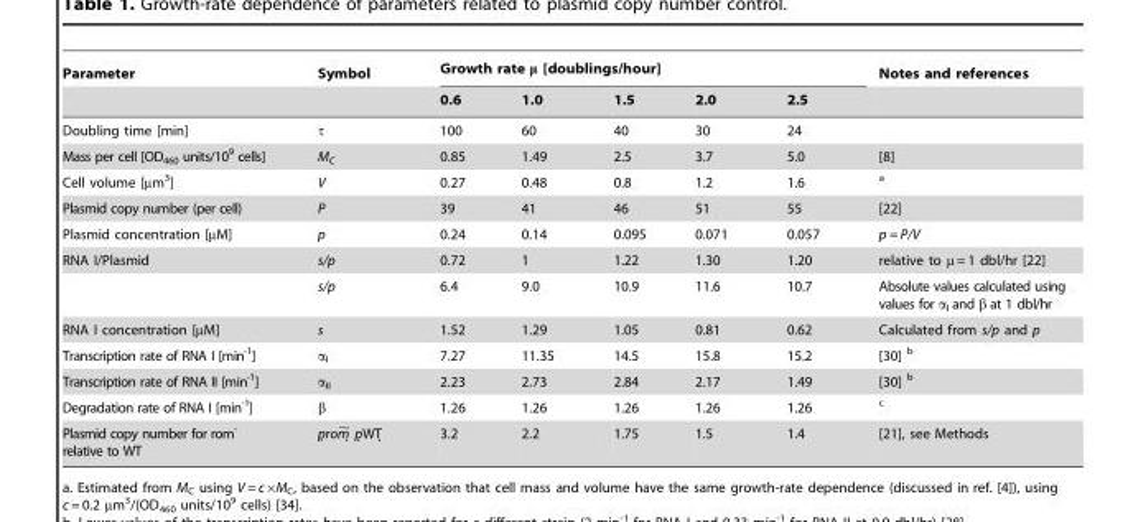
<table><thead><tr><td rowspan="2">Parameter</td><td rowspan="2">Symbol</td><td colspan="5">Growth rate μ [doublings/hour]</td><td rowspan="2">Notes and references</td></tr><tr><td>0.6</td><td>1.0</td><td>1.5</td><td>2.0</td><td>2.5</td></tr></thead><tbody><tr><td>Doubling time [min]</td><td>τ</td><td>100</td><td>60</td><td>40</td><td>30</td><td>24</td><td></td></tr><tr><td>Mass per cell [OD<sub>460</sub> units/10<sup>9</sup> cells]</td><td>M<sub>C</sub></td><td>0.85</td><td>1.49</td><td>2.5</td><td>3.7</td><td>5.0</td><td>[8]</td></tr><tr><td>Cell volume [µm<sup>3</sup>]</td><td>V</td><td>0.27</td><td>0.48</td><td>0.8</td><td>1.2</td><td>1.6</td><td>a</td></tr><tr><td>Plasmid copy number (per cell)</td><td>P</td><td>39</td><td>41</td><td>46</td><td>51</td><td>55</td><td>[22]</td></tr><tr><td>Plasmid concentration [µM]</td><td>p</td><td>0.24</td><td>0.14</td><td>0.095</td><td>0.071</td><td>0.057</td><td>p = P/V</td></tr><tr><td rowspan="2">RNA I/Plasmid</td><td>s/p</td><td>0.72</td><td>1</td><td>1.22</td><td>1.30</td><td>1.20</td><td>relative to μ = 1 dbl/hr [22]</td></tr><tr><td>s/p</td><td>6.4</td><td>9.0</td><td>10.9</td><td>11.6</td><td>10.7</td><td>Absolute values calculated using values for α<sub>I</sub> and β at 1 dbl/hr</td></tr><tr><td>RNA I concentration [µM]</td><td>s</td><td>1.52</td><td>1.29</td><td>1.05</td><td>0.81</td><td>0.62</td><td>Calculated from s/p and p</td></tr><tr><td>Transcription rate of RNA I [min<sup>-1</sup>]</td><td>α<sub>I</sub></td><td>7.27</td><td>11.35</td><td>14.5</td><td>15.8</td><td>15.2</td><td>[30] b</td></tr><tr><td>Transcription rate of RNA II [min<sup>-1</sup>]</td><td>α<sub>II</sub></td><td>2.23</td><td>2.73</td><td>2.84</td><td>2.17</td><td>1.49</td><td>[30] b</td></tr><tr><td>Degradation rate of RNA I [min<sup>-1</sup>]</td><td>β</td><td>1.26</td><td>1.26</td><td>1.26</td><td>1.26</td><td>1.26</td><td>c</td></tr><tr><td>Plasmid copy number for rom<sup>-</sup> relative to WT</td><td>p.rom., p.WT.</td><td>3.2</td><td>2.2</td><td>1.75</td><td>1.5</td><td>1.4</td><td>[21], see Methods</td></tr></tbody></table>